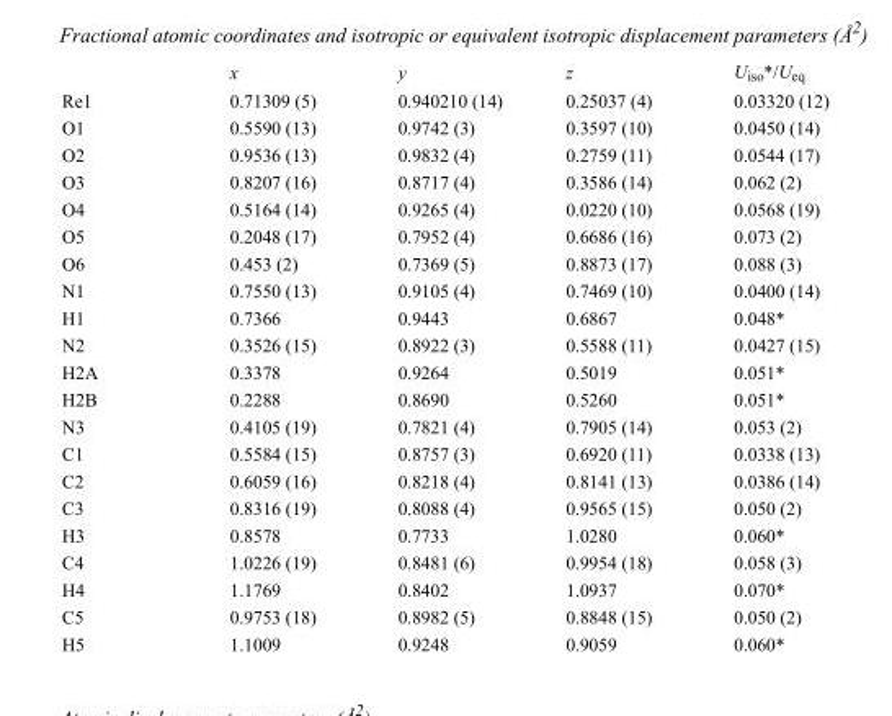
<table><thead><tr><td></td><td>x</td><td>y</td><td>z</td><td>U<sub>iso</sub>*/U<sub>eq</sub></td></tr></thead><tbody><tr><td>Re1</td><td>0.71309 (5)</td><td>0.940210 (14)</td><td>0.25037 (4)</td><td>0.03320 (12)</td></tr><tr><td>O1</td><td>0.5590 (13)</td><td>0.9742 (3)</td><td>0.3597 (10)</td><td>0.0450 (14)</td></tr><tr><td>O2</td><td>0.9536 (13)</td><td>0.9832 (4)</td><td>0.2759 (11)</td><td>0.0544 (17)</td></tr><tr><td>O3</td><td>0.8207 (16)</td><td>0.8717 (4)</td><td>0.3586 (14)</td><td>0.062 (2)</td></tr><tr><td>O4</td><td>0.5164 (14)</td><td>0.9265 (4)</td><td>0.0220 (10)</td><td>0.0568 (19)</td></tr><tr><td>O5</td><td>0.2048 (17)</td><td>0.7952 (4)</td><td>0.6686 (16)</td><td>0.073 (2)</td></tr><tr><td>O6</td><td>0.453 (2)</td><td>0.7369 (5)</td><td>0.8873 (17)</td><td>0.088 (3)</td></tr><tr><td>N1</td><td>0.7550 (13)</td><td>0.9105 (4)</td><td>0.7469 (10)</td><td>0.0400 (14)</td></tr><tr><td>H1</td><td>0.7366</td><td>0.9443</td><td>0.6867</td><td>0.048*</td></tr><tr><td>N2</td><td>0.3526 (15)</td><td>0.8922 (3)</td><td>0.5588 (11)</td><td>0.0427 (15)</td></tr><tr><td>H2A</td><td>0.3378</td><td>0.9264</td><td>0.5019</td><td>0.051*</td></tr><tr><td>H2B</td><td>0.2288</td><td>0.8690</td><td>0.5260</td><td>0.051*</td></tr><tr><td>N3</td><td>0.4105 (19)</td><td>0.7821 (4)</td><td>0.7905 (14)</td><td>0.053 (2)</td></tr><tr><td>C1</td><td>0.5584 (15)</td><td>0.8757 (3)</td><td>0.6920 (11)</td><td>0.0338 (13)</td></tr><tr><td>C2</td><td>0.6059 (16)</td><td>0.8218 (4)</td><td>0.8141 (13)</td><td>0.0386 (14)</td></tr><tr><td>C3</td><td>0.8316 (19)</td><td>0.8088 (4)</td><td>0.9565 (15)</td><td>0.050 (2)</td></tr><tr><td>H3</td><td>0.8578</td><td>0.7733</td><td>1.0280</td><td>0.060*</td></tr><tr><td>C4</td><td>1.0226 (19)</td><td>0.8481 (6)</td><td>0.9954 (18)</td><td>0.058 (3)</td></tr><tr><td>H4</td><td>1.1769</td><td>0.8402</td><td>1.0937</td><td>0.070*</td></tr><tr><td>C5</td><td>0.9753 (18)</td><td>0.8982 (5)</td><td>0.8848 (15)</td><td>0.050 (2)</td></tr><tr><td>H5</td><td>1.1009</td><td>0.9248</td><td>0.9059</td><td>0.060*</td></tr></tbody></table>